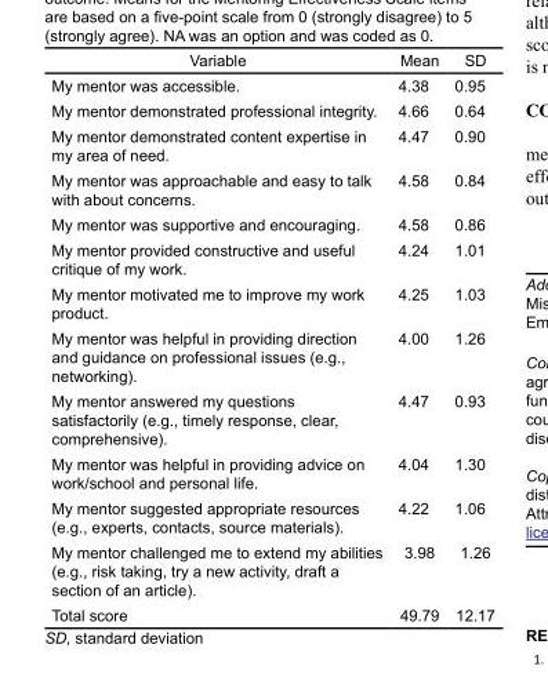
<table><thead><tr><td>Variable</td><td>Mean</td><td>SD</td></tr></thead><tbody><tr><td>My mentor was accessible.</td><td>4.38</td><td>0.95</td></tr><tr><td>My mentor demonstrated professional integrity.</td><td>4.66</td><td>0.64</td></tr><tr><td>My mentor demonstrated content expertise in my area of need.</td><td>4.47</td><td>0.90</td></tr><tr><td>My mentor was approachable and easy to talk with about concerns.</td><td>4.58</td><td>0.84</td></tr><tr><td>My mentor was supportive and encouraging.</td><td>4.58</td><td>0.86</td></tr><tr><td>My mentor provided constructive and useful critique of my work.</td><td>4.24</td><td>1.01</td></tr><tr><td>My mentor motivated me to improve my work product.</td><td>4.25</td><td>1.03</td></tr><tr><td>My mentor was helpful in providing direction and guidance on professional issues (e.g., networking).</td><td>4.00</td><td>1.26</td></tr><tr><td>My mentor answered my questions satisfactorily (e.g., timely response, clear, comprehensive).</td><td>4.47</td><td>0.93</td></tr><tr><td>My mentor was helpful in providing advice on work/school and personal life.</td><td>4.04</td><td>1.30</td></tr><tr><td>My mentor suggested appropriate resources (e.g., experts, contacts, source materials).</td><td>4.22</td><td>1.06</td></tr><tr><td>My mentor challenged me to extend my abilities (e.g., risk taking, try a new activity, draft a section of an article).</td><td>3.98</td><td>1.26</td></tr><tr><td>Total score</td><td>49.79</td><td>12.17</td></tr></tbody></table>